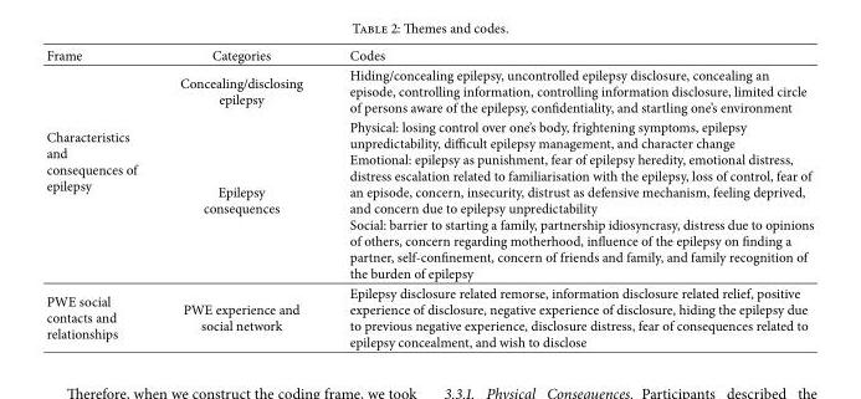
<table><thead><tr><td>Frame</td><td>Categories</td><td>Codes</td></tr></thead><tbody><tr><td rowspan="2">Characteristics and consequences of epilepsy</td><td>Concealing/disclosing epilepsy</td><td>Hiding/concealing epilepsy, uncontrolled epilepsy disclosure, concealing an episode, controlling information, controlling information disclosure, limited circle of persons aware of the epilepsy, confidentiality, and startling one’s environment</td></tr><tr><td>Epilepsy consequences</td><td>Physical: losing control over one’s body, frightening symptoms, epilepsy unpredictability, difficult epilepsy management, and character change Emotional: epilepsy as punishment, fear of epilepsy heredity, emotional distress, distress escalation related to familiarisation with the epilepsy, loss of control, fear of an episode, concern, insecurity, distrust as defensive mechanism, feeling deprived, and concern due to epilepsy unpredictability Social: barrier to starting a family, partnership idiosyncrasy, distress due to opinions of others, concern regarding motherhood, influence of the epilepsy on finding a partner, self-confinement, concern of friends and family, and family recognition of the burden of epilepsy</td></tr><tr><td>PWE social contacts and relationships</td><td>PWE experience and social network</td><td>Epilepsy disclosure related remorse, information disclosure related relief, positive experience of disclosure, negative experience of disclosure, hiding the epilepsy due to previous negative experience, disclosure distress, fear of consequences related to epilepsy concealment, and wish to disclose</td></tr></tbody></table>